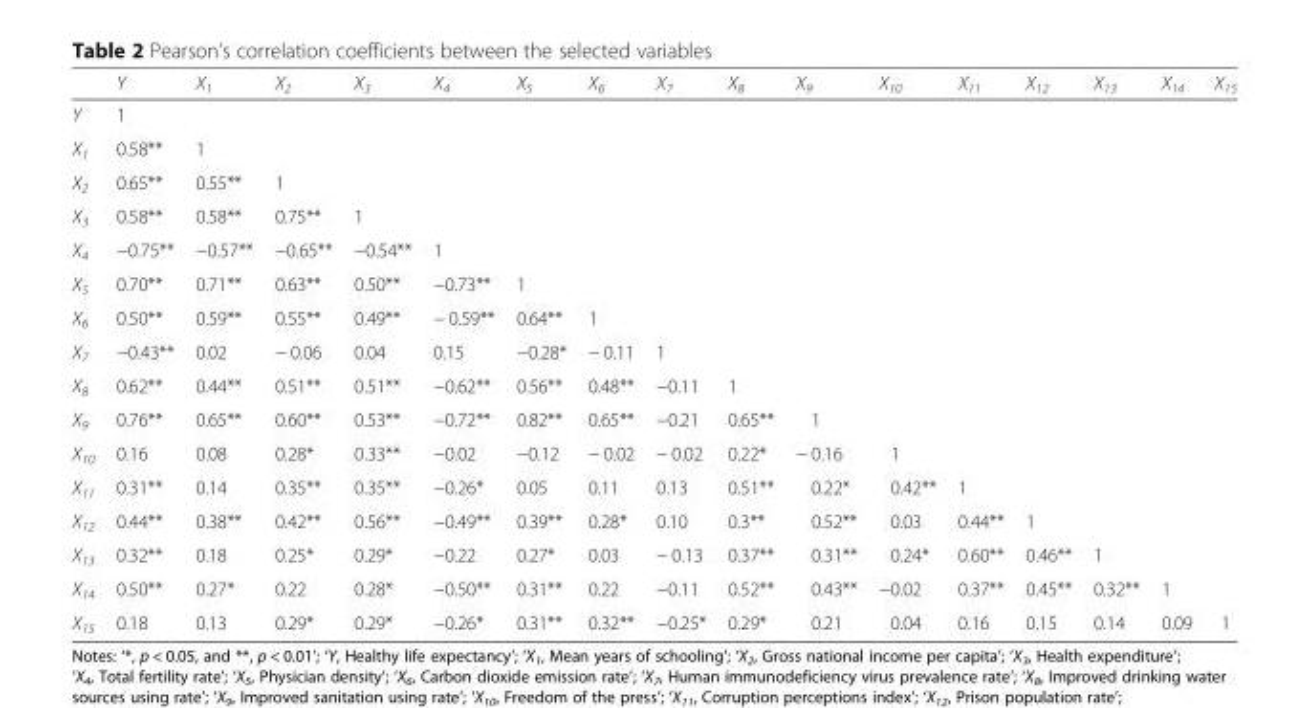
<table><thead><tr><td></td><td>Y</td><td>X<sub>1</sub></td><td>X<sub>2</sub></td><td>X<sub>3</sub></td><td>X<sub>4</sub></td><td>X<sub>5</sub></td><td>X<sub>6</sub></td><td>X<sub>7</sub></td><td>X<sub>8</sub></td><td>X<sub>9</sub></td><td>X<sub>10</sub></td><td>X<sub>11</sub></td><td>X<sub>12</sub></td><td>X<sub>13</sub></td><td>X<sub>14</sub></td><td>X<sub>15</sub></td></tr></thead><tbody><tr><td>Y</td><td>1</td><td></td><td></td><td></td><td></td><td></td><td></td><td></td><td></td><td></td><td></td><td></td><td></td><td></td><td></td><td></td></tr><tr><td>X<sub>1</sub></td><td>0.58**</td><td>1</td><td></td><td></td><td></td><td></td><td></td><td></td><td></td><td></td><td></td><td></td><td></td><td></td><td></td><td></td></tr><tr><td>X<sub>2</sub></td><td>0.65**</td><td>0.55**</td><td>1</td><td></td><td></td><td></td><td></td><td></td><td></td><td></td><td></td><td></td><td></td><td></td><td></td><td></td></tr><tr><td>X<sub>3</sub></td><td>0.58**</td><td>0.58**</td><td>0.75**</td><td>1</td><td></td><td></td><td></td><td></td><td></td><td></td><td></td><td></td><td></td><td></td><td></td><td></td></tr><tr><td>X<sub>4</sub></td><td>−0.75**</td><td>−0.57**</td><td>−0.65**</td><td>−0.54**</td><td>1</td><td></td><td></td><td></td><td></td><td></td><td></td><td></td><td></td><td></td><td></td><td></td></tr><tr><td>X<sub>5</sub></td><td>0.70**</td><td>0.71**</td><td>0.63**</td><td>0.50**</td><td>−0.73**</td><td>1</td><td></td><td></td><td></td><td></td><td></td><td></td><td></td><td></td><td></td><td></td></tr><tr><td>X<sub>6</sub></td><td>0.50**</td><td>0.59**</td><td>0.55**</td><td>0.49**</td><td>− 0.59**</td><td>0.64**</td><td>1</td><td></td><td></td><td></td><td></td><td></td><td></td><td></td><td></td><td></td></tr><tr><td>X<sub>7</sub></td><td>−0.43**</td><td>0.02</td><td>− 0.06</td><td>0.04</td><td>0.15</td><td>−0.28*</td><td>− 0.11</td><td>1</td><td></td><td></td><td></td><td></td><td></td><td></td><td></td><td></td></tr><tr><td>X<sub>8</sub></td><td>0.62**</td><td>0.44**</td><td>0.51**</td><td>0.51**</td><td>−0.62**</td><td>0.56**</td><td>0.48**</td><td>−0.11</td><td>1</td><td></td><td></td><td></td><td></td><td></td><td></td><td></td></tr><tr><td>X<sub>9</sub></td><td>0.76**</td><td>0.65**</td><td>0.60**</td><td>0.53**</td><td>−0.72**</td><td>0.82**</td><td>0.65**</td><td>−0.21</td><td>0.65**</td><td>1</td><td></td><td></td><td></td><td></td><td></td><td></td></tr><tr><td>X<sub>10</sub></td><td>0.16</td><td>0.08</td><td>0.28*</td><td>0.33**</td><td>−0.02</td><td>−0.12</td><td>− 0.02</td><td>− 0.02</td><td>0.22*</td><td>− 0.16</td><td>1</td><td></td><td></td><td></td><td></td><td></td></tr><tr><td>X<sub>11</sub></td><td>0.31**</td><td>0.14</td><td>0.35**</td><td>0.35**</td><td>−0.26*</td><td>0.05</td><td>0.11</td><td>0.13</td><td>0.51**</td><td>0.22*</td><td>0.42**</td><td>1</td><td></td><td></td><td></td><td></td></tr><tr><td>X<sub>12</sub></td><td>0.44**</td><td>0.38**</td><td>0.42**</td><td>0.56**</td><td>−0.49**</td><td>0.39**</td><td>0.28*</td><td>0.10</td><td>0.3**</td><td>0.52**</td><td>0.03</td><td>0.44**</td><td>1</td><td></td><td></td><td></td></tr><tr><td>X<sub>13</sub></td><td>0.32**</td><td>0.18</td><td>0.25*</td><td>0.29*</td><td>−0.22</td><td>0.27*</td><td>0.03</td><td>− 0.13</td><td>0.37**</td><td>0.31**</td><td>0.24*</td><td>0.60**</td><td>0.46**</td><td>1</td><td></td><td></td></tr><tr><td>X<sub>14</sub></td><td>0.50**</td><td>0.27*</td><td>0.22</td><td>0.28*</td><td>−0.50**</td><td>0.31**</td><td>0.22</td><td>−0.11</td><td>0.52**</td><td>0.43**</td><td>−0.02</td><td>0.37**</td><td>0.45**</td><td>0.32**</td><td>1</td><td></td></tr><tr><td>X<sub>15</sub></td><td>0.18</td><td>0.13</td><td>0.29*</td><td>0.29*</td><td>−0.26*</td><td>0.31**</td><td>0.32**</td><td>−0.25*</td><td>0.29*</td><td>0.21</td><td>0.04</td><td>0.16</td><td>0.15</td><td>0.14</td><td>0.09</td><td>1</td></tr></tbody></table>